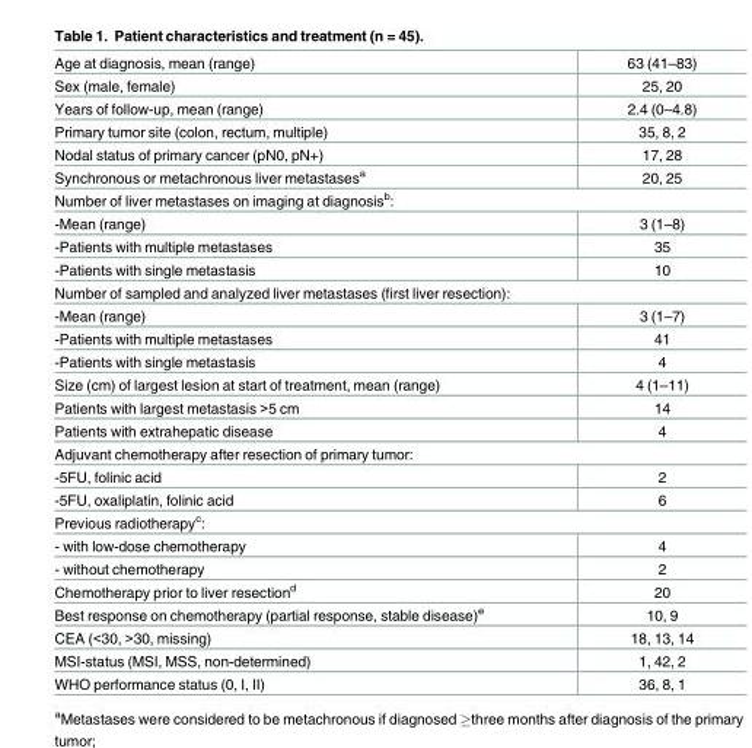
<table><tbody><tr><td>Age at diagnosis, mean (range)</td><td>63 (41–83)</td></tr><tr><td>Sex (male, female)</td><td>25, 20</td></tr><tr><td>Years of follow-up, mean (range)</td><td>2.4 (0–4.8)</td></tr><tr><td>Primary tumor site (colon, rectum, multiple)</td><td>35, 8, 2</td></tr><tr><td>Nodal status of primary cancer (pN0, pN+)</td><td>17, 28</td></tr><tr><td>Synchronous or metachronous liver metastases<sup>a</sup></td><td>20, 25</td></tr><tr><td colspan="2">Number of liver metastases on imaging at diagnosis<sup>b</sup>:</td></tr><tr><td>-Mean (range)</td><td>3 (1–8)</td></tr><tr><td>-Patients with multiple metastases</td><td>35</td></tr><tr><td>-Patients with single metastasis</td><td>10</td></tr><tr><td colspan="2">Number of sampled and analyzed liver metastases (first liver resection):</td></tr><tr><td>-Mean (range)</td><td>3 (1–7)</td></tr><tr><td>-Patients with multiple metastases</td><td>41</td></tr><tr><td>-Patients with single metastasis</td><td>4</td></tr><tr><td>Size (cm) of largest lesion at start of treatment, mean (range)</td><td>4 (1–11)</td></tr><tr><td>Patients with largest metastasis &gt;5 cm</td><td>14</td></tr><tr><td>Patients with extrahepatic disease</td><td>4</td></tr><tr><td colspan="2">Adjuvant chemotherapy after resection of primary tumor:</td></tr><tr><td>-5FU, folinic acid</td><td>2</td></tr><tr><td>-5FU, oxaliplatin, folinic acid</td><td>6</td></tr><tr><td colspan="2">Previous radiotherapy<sup>c</sup>:</td></tr><tr><td>- with low-dose chemotherapy</td><td>4</td></tr><tr><td>- without chemotherapy</td><td>2</td></tr><tr><td>Chemotherapy prior to liver resection<sup>d</sup></td><td>20</td></tr><tr><td>Best response on chemotherapy (partial response, stable disease)<sup>e</sup></td><td>10, 9</td></tr><tr><td>CEA (&lt;30, &gt;30, missing)</td><td>18, 13, 14</td></tr><tr><td>MSI-status (MSI, MSS, non-determined)</td><td>1, 42, 2</td></tr><tr><td>WHO performance status (0, I, II)</td><td>36, 8, 1</td></tr></tbody></table>